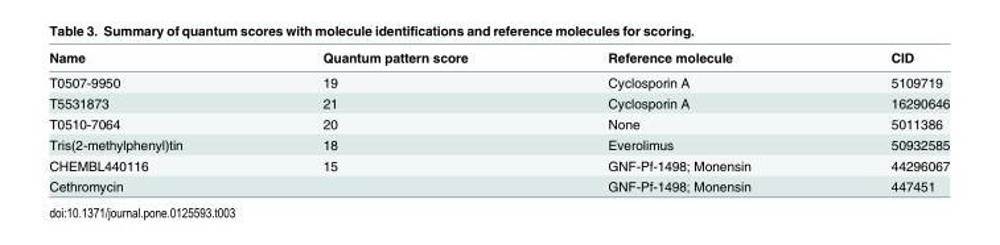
<table><thead><tr><td>Name</td><td>Quantum pattern score</td><td>Reference molecule</td><td>CID</td></tr></thead><tbody><tr><td>T0507-9950</td><td>19</td><td>Cyclosporin A</td><td>5109719</td></tr><tr><td>T5531873</td><td>21</td><td>Cyclosporin A</td><td>16290646</td></tr><tr><td>T0510-7064</td><td>20</td><td>None</td><td>5011386</td></tr><tr><td>Tris(2-methylphenyl)tin</td><td>18</td><td>Everolimus</td><td>50932585</td></tr><tr><td>CHEMBL440116</td><td>15</td><td>GNF-Pf-1498; Monensin</td><td>44296067</td></tr><tr><td>Cethromycin</td><td></td><td>GNF-Pf-1498; Monensin</td><td>447451</td></tr></tbody></table>